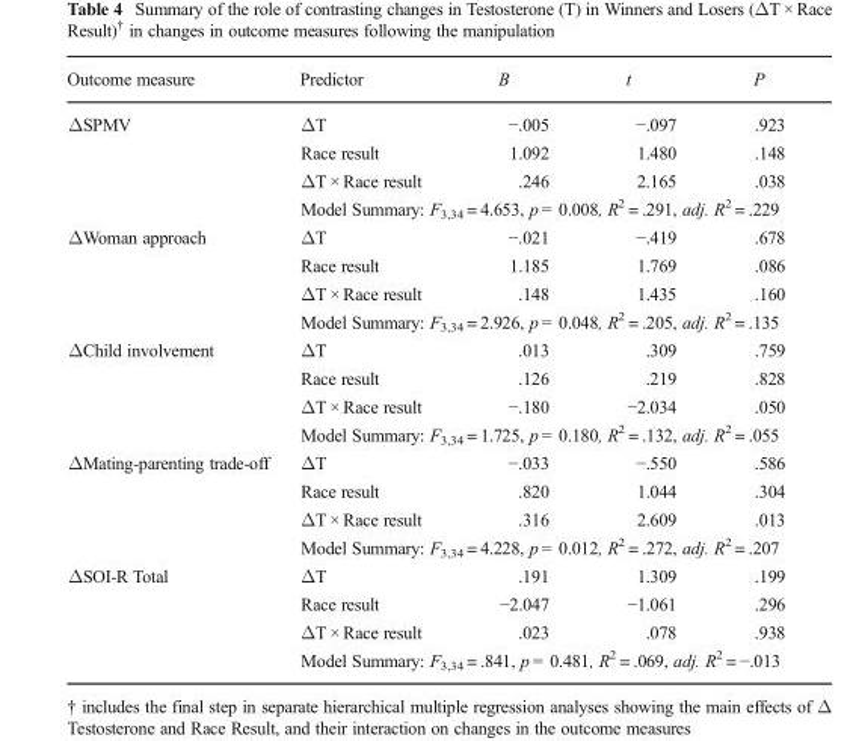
<table><thead><tr><td>Outcome measure</td><td>Predictor</td><td>Β</td><td>t</td><td>P</td></tr></thead><tbody><tr><td rowspan="4">ΔSPMV</td><td>ΔT</td><td>−.005</td><td>−.097</td><td>.923</td></tr><tr><td>Race result</td><td>1.092</td><td>1.480</td><td>.148</td></tr><tr><td>ΔT × Race result</td><td>.246</td><td>2.165</td><td>.038</td></tr><tr><td colspan="4">Model Summary: F<sub>3,34</sub> = 4.653, p = 0.008, R<sup>2</sup> = .291, adj. R<sup>2</sup> = .229</td></tr><tr><td rowspan="4">ΔWoman approach</td><td>ΔT</td><td>−.021</td><td>−.419</td><td>.678</td></tr><tr><td>Race result</td><td>1.185</td><td>1.769</td><td>.086</td></tr><tr><td>ΔT × Race result</td><td>.148</td><td>1.435</td><td>.160</td></tr><tr><td colspan="4">Model Summary: F<sub>3,34</sub> = 2.926, p = 0.048, R<sup>2</sup> = .205, adj. R<sup>2</sup> = .135</td></tr><tr><td rowspan="4">ΔChild involvement</td><td>ΔT</td><td>.013</td><td>.309</td><td>.759</td></tr><tr><td>Race result</td><td>.126</td><td>.219</td><td>.828</td></tr><tr><td>ΔT × Race result</td><td>−.180</td><td>−2.034</td><td>.050</td></tr><tr><td colspan="4">Model Summary: F<sub>3,34</sub> = 1.725, p = 0.180, R<sup>2</sup> = .132, adj. R<sup>2</sup> = .055</td></tr><tr><td rowspan="4">ΔMating-parenting trade-off</td><td>ΔT</td><td>−.033</td><td>−.550</td><td>.586</td></tr><tr><td>Race result</td><td>.820</td><td>1.044</td><td>.304</td></tr><tr><td>ΔT × Race result</td><td>.316</td><td>2.609</td><td>.013</td></tr><tr><td colspan="4">Model Summary: F<sub>3,34</sub> = 4.228, p = 0.012, R<sup>2</sup> = .272, adj. R<sup>2</sup> = .207</td></tr><tr><td rowspan="4">ΔSOI-R Total</td><td>ΔT</td><td>.191</td><td>1.309</td><td>.199</td></tr><tr><td>Race result</td><td>−2.047</td><td>−1.061</td><td>.296</td></tr><tr><td>ΔT × Race result</td><td>.023</td><td>.078</td><td>.938</td></tr><tr><td colspan="4">Model Summary: F<sub>3,34</sub> = .841, p = 0.481, R<sup>2</sup> = .069, adj. R<sup>2</sup> = −.013</td></tr></tbody></table>